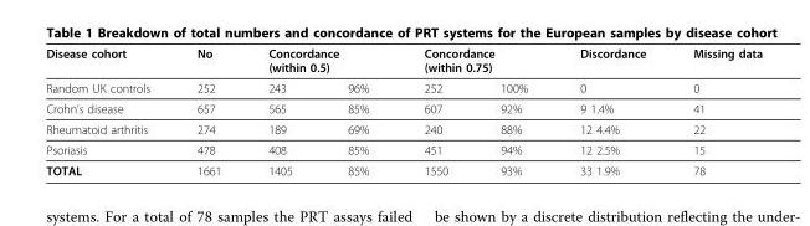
<table><thead><tr><td rowspan="2">Disease cohort Random UK controls</td><td rowspan="2">No 252</td><td colspan="2">Concordance (within 0.5)</td><td colspan="2">Concordance (within 0.75)</td><td rowspan="2">Discordance 0</td><td rowspan="2">Missing data 0</td></tr><tr><td>243</td><td>96%</td><td>252</td><td>100%</td></tr></thead><tbody><tr><td>Crohn’s disease</td><td>657</td><td>565</td><td>85%</td><td>607</td><td>92%</td><td>9 1.4%</td><td>41</td></tr><tr><td>Rheumatoid arthritis</td><td>274</td><td>189</td><td>69%</td><td>240</td><td>88%</td><td>12 4.4%</td><td>22</td></tr><tr><td>Psoriasis</td><td>478</td><td>408</td><td>85%</td><td>451</td><td>94%</td><td>12 2.5%</td><td>15</td></tr><tr><td>TOTAL</td><td>1661</td><td>1405</td><td>85%</td><td>1550</td><td>93%</td><td>33 1.9%</td><td>78</td></tr></tbody></table>